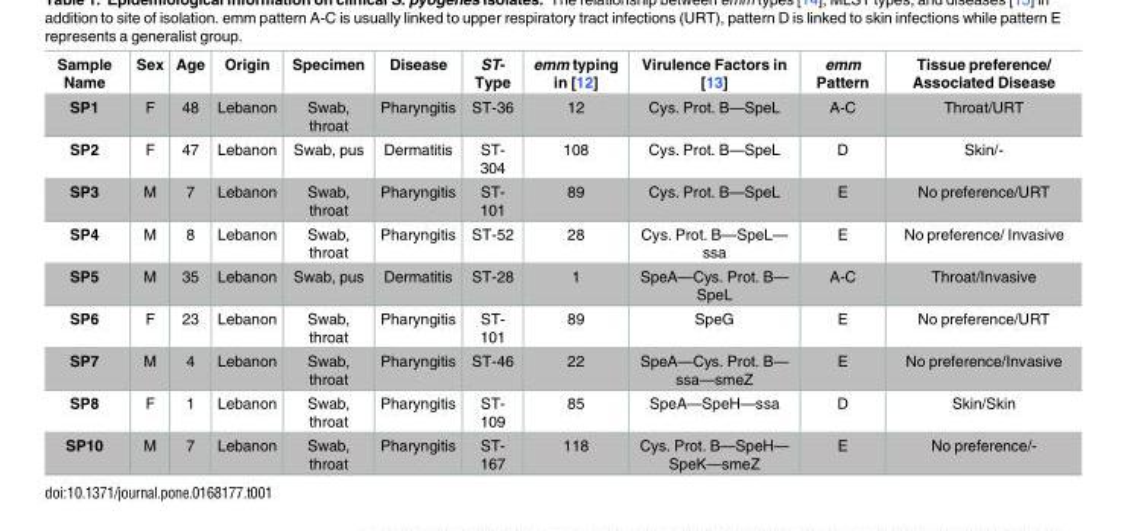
<table><thead><tr><td>Sample Name</td><td>Sex</td><td>Age</td><td>Origin</td><td>Specimen</td><td>Disease</td><td>ST- Type</td><td>emm typing in [12]</td><td>Virulence Factors in [13]</td><td>emm Pattern</td><td>Tissue preference/ Associated Disease</td></tr></thead><tbody><tr><td>SP1</td><td>F</td><td>48</td><td>Lebanon</td><td>Swab, throat</td><td>Pharyngitis</td><td>ST-36</td><td>12</td><td>Cys. Prot. B—SpeL</td><td>A-C</td><td>Throat/URT</td></tr><tr><td>SP2</td><td>F</td><td>47</td><td>Lebanon</td><td>Swab, pus</td><td>Dermatitis</td><td>ST- 304</td><td>108</td><td>Cys. Prot. B—SpeL</td><td>D</td><td>Skin/-</td></tr><tr><td>SP3</td><td>M</td><td>7</td><td>Lebanon</td><td>Swab, throat</td><td>Pharyngitis</td><td>ST- 101</td><td>89</td><td>Cys. Prot. B—SpeL</td><td>E</td><td>No preference/URT</td></tr><tr><td>SP4</td><td>M</td><td>8</td><td>Lebanon</td><td>Swab, throat</td><td>Pharyngitis</td><td>ST-52</td><td>28</td><td>Cys. Prot. B—SpeL— ssa</td><td>E</td><td>No preference/ Invasive</td></tr><tr><td>SP5</td><td>M</td><td>35</td><td>Lebanon</td><td>Swab, pus</td><td>Dermatitis</td><td>ST-28</td><td>1</td><td>SpeA—Cys. Prot. B— SpeL</td><td>A-C</td><td>Throat/Invasive</td></tr><tr><td>SP6</td><td>F</td><td>23</td><td>Lebanon</td><td>Swab, throat</td><td>Pharyngitis</td><td>ST- 101</td><td>89</td><td>SpeG</td><td>E</td><td>No preference/URT</td></tr><tr><td>SP7</td><td>M</td><td>4</td><td>Lebanon</td><td>Swab, throat</td><td>Pharyngitis</td><td>ST-46</td><td>22</td><td>SpeA—Cys. Prot. B— ssa—smeZ</td><td>E</td><td>No preference/Invasive</td></tr><tr><td>SP8</td><td>F</td><td>1</td><td>Lebanon</td><td>Swab, throat</td><td>Pharyngitis</td><td>ST- 109</td><td>85</td><td>SpeA—SpeH—ssa</td><td>D</td><td>Skin/Skin</td></tr><tr><td>SP10</td><td>M</td><td>7</td><td>Lebanon</td><td>Swab, throat</td><td>Pharyngitis</td><td>ST- 167</td><td>118</td><td>Cys. Prot. B—SpeH— SpeK—smeZ</td><td>E</td><td>No preference/-</td></tr></tbody></table>